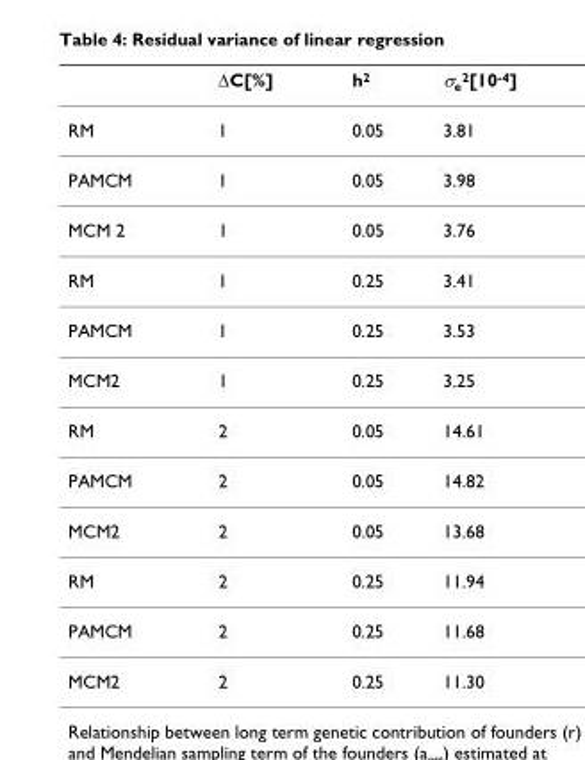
<table><thead><tr><td></td><td>ΔC[%]</td><td>h<sup>2</sup></td><td>σ<sub>e</sub><sup>2</sup>[10<sup>-4</sup>]</td></tr></thead><tbody><tr><td>RM</td><td>1</td><td>0.05</td><td>3.81</td></tr><tr><td>PAMCM</td><td>1</td><td>0.05</td><td>3.98</td></tr><tr><td>MCM 2</td><td>1</td><td>0.05</td><td>3.76</td></tr><tr><td>RM</td><td>1</td><td>0.25</td><td>3.41</td></tr><tr><td>PAMCM</td><td>1</td><td>0.25</td><td>3.53</td></tr><tr><td>MCM2</td><td>1</td><td>0.25</td><td>3.25</td></tr><tr><td>RM</td><td>2</td><td>0.05</td><td>14.61</td></tr><tr><td>PAMCM</td><td>2</td><td>0.05</td><td>14.82</td></tr><tr><td>MCM2</td><td>2</td><td>0.05</td><td>13.68</td></tr><tr><td>RM</td><td>2</td><td>0.25</td><td>11.94</td></tr><tr><td>PAMCM</td><td>2</td><td>0.25</td><td>11.68</td></tr><tr><td>MCM2</td><td>2</td><td>0.25</td><td>11.30</td></tr></tbody></table>